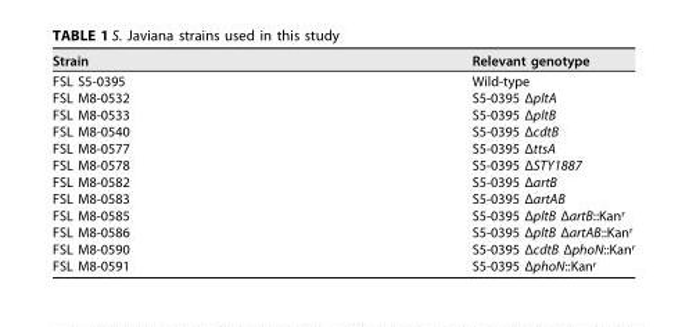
<table><thead><tr><td>Strain</td><td>Relevant genotype</td></tr></thead><tbody><tr><td>FSL S5-0395</td><td>Wild-type</td></tr><tr><td>FSL M8-0532</td><td>S5-0395 ΔpltA</td></tr><tr><td>FSL M8-0533</td><td>S5-0395 ΔpltB</td></tr><tr><td>FSL M8-0540</td><td>S5-0395 ΔcdtB</td></tr><tr><td>FSL M8-0577</td><td>S5-0395 ΔttsA</td></tr><tr><td>FSL M8-0578</td><td>S5-0395 ΔSTY1887</td></tr><tr><td>FSL M8-0582</td><td>S5-0395 ΔartB</td></tr><tr><td>FSL M8-0583</td><td>S5-0395 ΔartAB</td></tr><tr><td>FSL M8-0585</td><td>S5-0395 ΔpltB ΔartB::Kan<sup>r</sup></td></tr><tr><td>FSL M8-0586</td><td>S5-0395 ΔpltB ΔartAB::Kan<sup>r</sup></td></tr><tr><td>FSL M8-0590</td><td>S5-0395 ΔcdtB ΔphoN::Kan<sup>r</sup></td></tr><tr><td>FSL M8-0591</td><td>S5-0395 ΔphoN::Kan<sup>r</sup></td></tr></tbody></table>